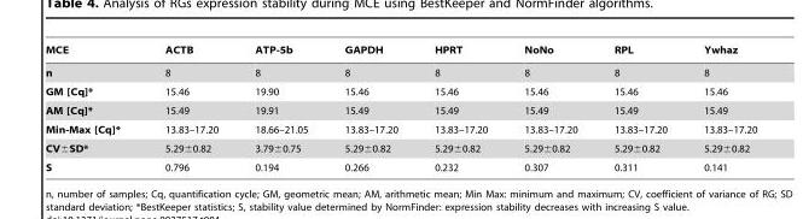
<table><thead><tr><td>MCE</td><td>ACTB</td><td>ATP-5b</td><td>GAPDH</td><td>HPRT</td><td>NoNo</td><td>RPL</td><td>Ywhaz</td></tr></thead><tbody><tr><td>n</td><td>8</td><td>8</td><td>8</td><td>8</td><td>8</td><td>8</td><td>8</td></tr><tr><td>GM [Cq]*</td><td>15.46</td><td>19.90</td><td>15.46</td><td>15.46</td><td>15.46</td><td>15.46</td><td>15.46</td></tr><tr><td>AM [Cq]*</td><td>15.49</td><td>19.91</td><td>15.49</td><td>15.49</td><td>15.49</td><td>15.49</td><td>15.49</td></tr><tr><td>Min-Max [Cq]*</td><td>13.83–17.20</td><td>18.66–21.05</td><td>13.83–17.20</td><td>13.83–17.20</td><td>13.83–17.20</td><td>13.83–17.20</td><td>13.83–17.20</td></tr><tr><td>CV±SD*</td><td>5.29±0.82</td><td>3.79±0.75</td><td>5.29±0.82</td><td>5.29±0.82</td><td>5.29±0.82</td><td>5.29±0.82</td><td>5.29±0.82</td></tr><tr><td>S</td><td>0.796</td><td>0.194</td><td>0.266</td><td>0.232</td><td>0.307</td><td>0.311</td><td>0.141</td></tr></tbody></table>